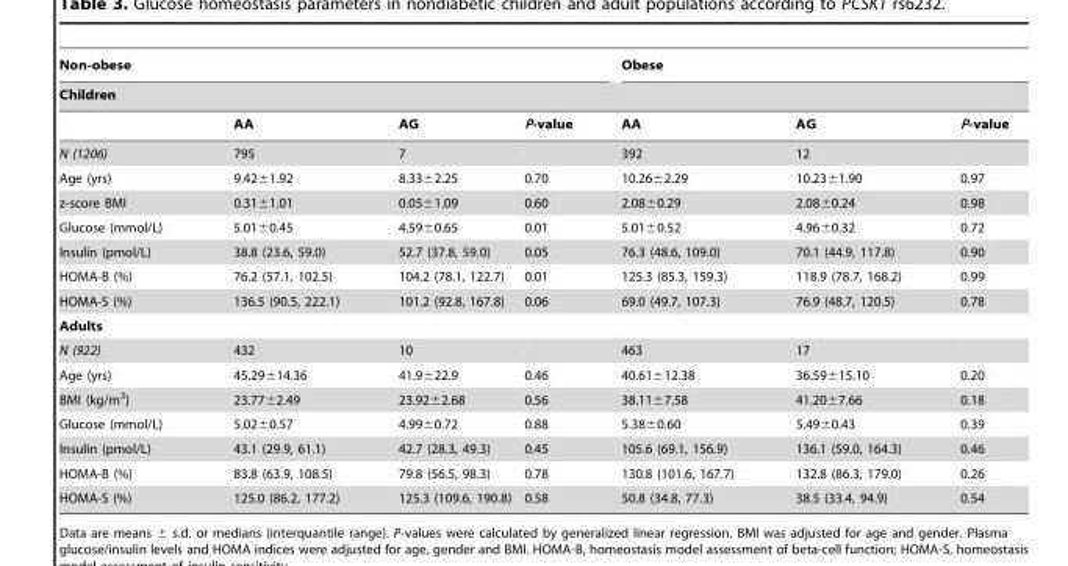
<table><thead><tr><td colspan="4">Non-obese</td><td colspan="3">Obese</td></tr><tr><td colspan="7">Children</td></tr><tr><td></td><td>AA</td><td>AG</td><td>P-value</td><td>AA</td><td>AG</td><td>P-value</td></tr></thead><tbody><tr><td>N (1206)</td><td>795</td><td>7</td><td></td><td>392</td><td>12</td><td></td></tr><tr><td>Age (yrs)</td><td>9.42±1.92</td><td>8.33±2.25</td><td>0.70</td><td>10.26±2.29</td><td>10.23±1.90</td><td>0.97</td></tr><tr><td>z-score BMI</td><td>0.31±1.01</td><td>0.05±1.09</td><td>0.60</td><td>2.08±0.29</td><td>2.08±0.24</td><td>0.98</td></tr><tr><td>Glucose (mmol/L)</td><td>5.01±0.45</td><td>4.59±0.65</td><td>0.01</td><td>5.01±0.52</td><td>4.96±0.32</td><td>0.72</td></tr><tr><td>Insulin (pmol/L)</td><td>38.8 (23.6, 59.0)</td><td>52.7 (37.8, 59.0)</td><td>0.05</td><td>76.3 (48.6, 109.0)</td><td>70.1 (44.9, 117.8)</td><td>0.90</td></tr><tr><td>HOMA-B (%)</td><td>76.2 (57.1, 102.5)</td><td>104.2 (78.1, 122.7)</td><td>0.01</td><td>125.3 (85.3, 159.3)</td><td>118.9 (78.7, 168.2)</td><td>0.99</td></tr><tr><td>HOMA-S (%)</td><td>136.5 (90.5, 222.1)</td><td>101.2 (92.8, 167.8)</td><td>0.06</td><td>69.0 (49.7, 107.3)</td><td>76.9 (48.7, 120.5)</td><td>0.78</td></tr><tr><td colspan="7">Adults</td></tr><tr><td>N (922)</td><td>432</td><td>10</td><td></td><td>463</td><td>17</td><td></td></tr><tr><td>Age (yrs)</td><td>45.29±14.36</td><td>41.9±22.9</td><td>0.46</td><td>40.61±12.38</td><td>36.59±15.10</td><td>0.20</td></tr><tr><td>BMI (kg/m<sup>2</sup>)</td><td>23.77±2.49</td><td>23.92±2.68</td><td>0.56</td><td>38.11±7.58</td><td>41.20±7.66</td><td>0.18</td></tr><tr><td>Glucose (mmol/L)</td><td>5.02±0.57</td><td>4.99±0.72</td><td>0.88</td><td>5.38±0.60</td><td>5.49±0.43</td><td>0.39</td></tr><tr><td>Insulin (pmol/L)</td><td>43.1 (29.9, 61.1)</td><td>42.7 (28.3, 49.3)</td><td>0.45</td><td>105.6 (69.1, 156.9)</td><td>136.1 (59.0, 164.3)</td><td>0.46</td></tr><tr><td>HOMA-B (%)</td><td>83.8 (63.9, 108.5)</td><td>79.8 (56.5, 98.3)</td><td>0.78</td><td>130.8 (101.6, 167.7)</td><td>132.8 (86.3, 179.0)</td><td>0.26</td></tr><tr><td>HOMA-S (%)</td><td>125.0 (86.2, 177.2)</td><td>125.3 (109.6, 190.8)</td><td>0.58</td><td>50.8 (34.8, 77.3)</td><td>38.5 (33.4, 94.9)</td><td>0.54</td></tr></tbody></table>